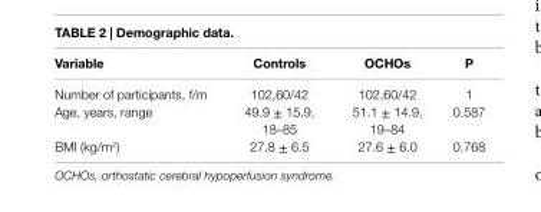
<table><thead><tr><td>Variable</td><td>controls</td><td>OchOs</td><td>P</td></tr></thead><tbody><tr><td>Number of participants, f/m</td><td>102,60/42</td><td>102,60/42</td><td>1</td></tr><tr><td>Age, years, range</td><td>49.9 ± 15.9, 18–85</td><td>51.1 ± 14.9, 19–84</td><td>0.587</td></tr><tr><td>BMI (kg/m<sup>2</sup>)</td><td>27.8 ± 6.5</td><td>27.6 ± 6.0</td><td>0.768</td></tr></tbody></table>